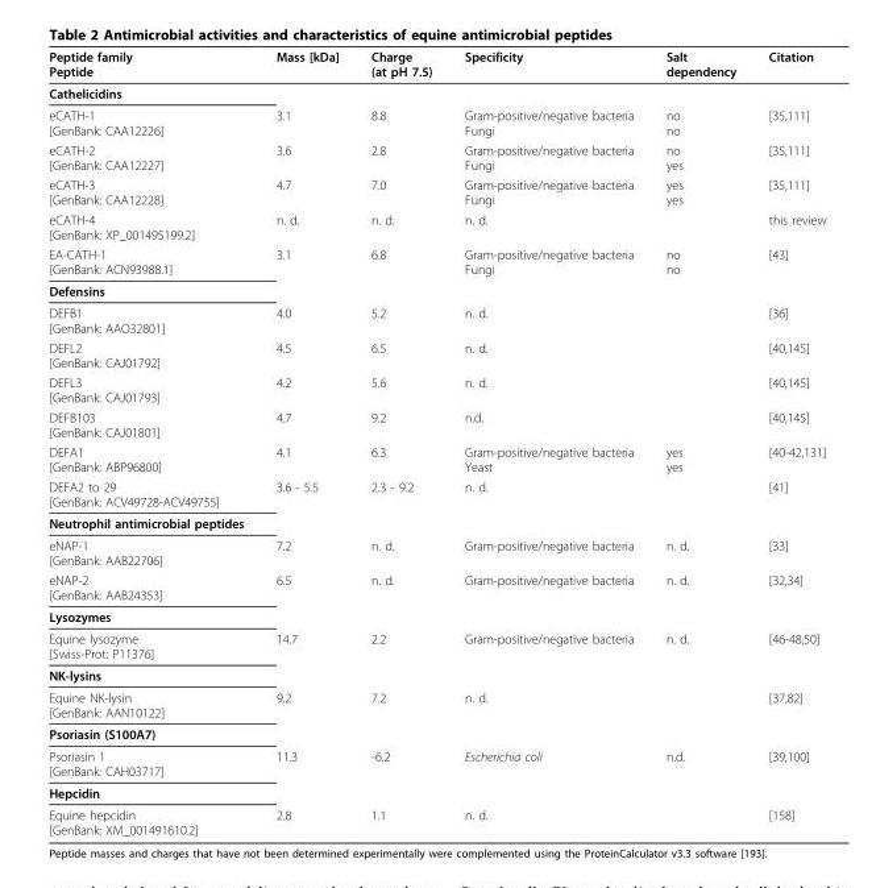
<table><thead><tr><td>Peptide family Peptide</td><td>Mass [kDa]</td><td>Charge (at pH 7.5)</td><td>Specificity</td><td>Salt dependency</td><td>Citation</td></tr></thead><tbody><tr><td colspan="6">Cathelicidins</td></tr><tr><td>eCATH-1 [GenBank: CAA12226]</td><td>3.1</td><td>8.8</td><td>Gram-positive/negative bacteria Fungi</td><td>no no</td><td>[35,111]</td></tr><tr><td>eCATH-2 [GenBank: CAA12227]</td><td>3.6</td><td>2.8</td><td>Gram-positive/negative bacteria Fungi</td><td>no yes</td><td>[35,111]</td></tr><tr><td>eCATH-3 [GenBank: CAA12228]</td><td>4.7</td><td>7.0</td><td>Gram-positive/negative bacteria Fungi</td><td>yes yes</td><td>[35,111]</td></tr><tr><td>eCATH-4 [GenBank: XP_001495199.2]</td><td>n. d.</td><td>n. d.</td><td>n. d.</td><td></td><td>this review</td></tr><tr><td>EA-CATH-1 [GenBank: ACN93988.1]</td><td>3.1</td><td>6.8</td><td>Gram-positive/negative bacteria Fungi</td><td>no no</td><td>[43]</td></tr><tr><td colspan="6">Defensins</td></tr><tr><td>DEFB1 [GenBank: AAO32801]</td><td>4.0</td><td>5.2</td><td>n. d.</td><td></td><td>[36]</td></tr><tr><td>DEFL2 [GenBank: CAJ01792]</td><td>4.5</td><td>6.5</td><td>n. d.</td><td></td><td>[40,145]</td></tr><tr><td>DEFL3 [GenBank: CAJ01793]</td><td>4.2</td><td>5.6</td><td>n. d.</td><td></td><td>[40,145]</td></tr><tr><td>DEFB103 [GenBank: CAJ01801]</td><td>4.7</td><td>9.2</td><td>n.d.</td><td></td><td>[40,145]</td></tr><tr><td>DEFA1 [GenBank: ABP96800]</td><td>4.1</td><td>6.3</td><td>Gram-positive/negative bacteria Yeast</td><td>yes yes</td><td>[40-42,131]</td></tr><tr><td>DEFA2 to 29 [GenBank: ACV49728-ACV49755]</td><td>3.6 - 5.5</td><td>2.3 - 9.2</td><td>n. d.</td><td></td><td>[41]</td></tr><tr><td colspan="6">Neutrophil antimicrobial peptides</td></tr><tr><td>eNAP-1 [GenBank: AAB22706]</td><td>7.2</td><td>n. d.</td><td>Gram-positive/negative bacteria</td><td>n. d.</td><td>[33]</td></tr><tr><td>eNAP-2 [GenBank: AAB24353]</td><td>6.5</td><td>n. d.</td><td>Gram-positive/negative bacteria</td><td>n. d.</td><td>[32,34]</td></tr><tr><td colspan="6">Lysozymes</td></tr><tr><td>Equine lysozyme [Swiss-Prot: P11376]</td><td>14.7</td><td>2.2</td><td>Gram-positive/negative bacteria</td><td>n. d.</td><td>[46-48,50]</td></tr><tr><td colspan="6">NK-lysins</td></tr><tr><td>Equine NK-lysin [GenBank: AAN10122]</td><td>9.2</td><td>7.2</td><td>n. d.</td><td></td><td>[37,82]</td></tr><tr><td colspan="6">Psoriasin (S100A7)</td></tr><tr><td>Psoriasin 1 [GenBank: CAH03717]</td><td>11.3</td><td>-6.2</td><td>Escherichia coli</td><td>n.d.</td><td>[39,100]</td></tr><tr><td colspan="6">Hepcidin</td></tr><tr><td>Equine hepcidin [GenBank: XM_001491610.2]</td><td>2.8</td><td>1.1</td><td>n. d.</td><td></td><td>[158]</td></tr></tbody></table>